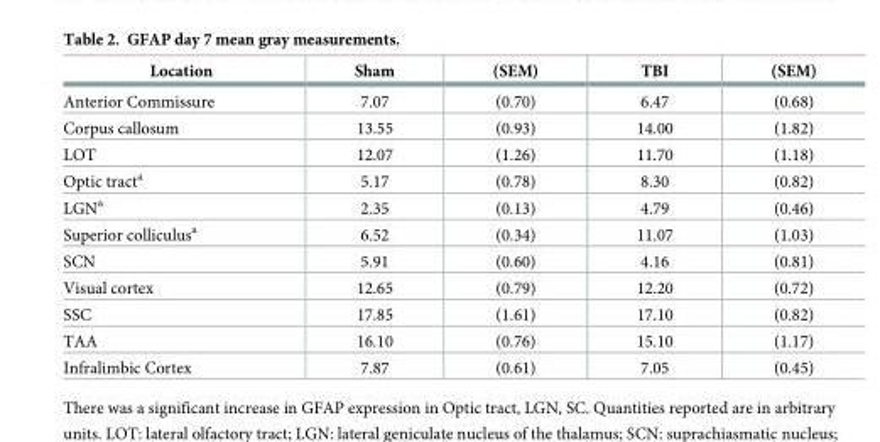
<table><thead><tr><td>Location</td><td>Sham</td><td>(SEM)</td><td>TBI</td><td>(SEM)</td></tr></thead><tbody><tr><td>Anterior Commissure</td><td>7.07</td><td>(0.70)</td><td>6.47</td><td>(0.68)</td></tr><tr><td>Corpus callosum</td><td>13.55</td><td>(0.93)</td><td>14.00</td><td>(1.82)</td></tr><tr><td>LOT</td><td>12.07</td><td>(1.26)</td><td>11.70</td><td>(1.18)</td></tr><tr><td>Optic tract<sup>a</sup></td><td>5.17</td><td>(0.78)</td><td>8.30</td><td>(0.82)</td></tr><tr><td>LGN<sup>a</sup></td><td>2.35</td><td>(0.13)</td><td>4.79</td><td>(0.46)</td></tr><tr><td>Superior colliculus<sup>a</sup></td><td>6.52</td><td>(0.34)</td><td>11.07</td><td>(1.03)</td></tr><tr><td>SCN</td><td>5.91</td><td>(0.60)</td><td>4.16</td><td>(0.81)</td></tr><tr><td>Visual cortex</td><td>12.65</td><td>(0.79)</td><td>12.20</td><td>(0.72)</td></tr><tr><td>SSC</td><td>17.85</td><td>(1.61)</td><td>17.10</td><td>(0.82)</td></tr><tr><td>TAA</td><td>16.10</td><td>(0.76)</td><td>15.10</td><td>(1.17)</td></tr><tr><td>Infralimbic Cortex</td><td>7.87</td><td>(0.61)</td><td>7.05</td><td>(0.45)</td></tr></tbody></table>